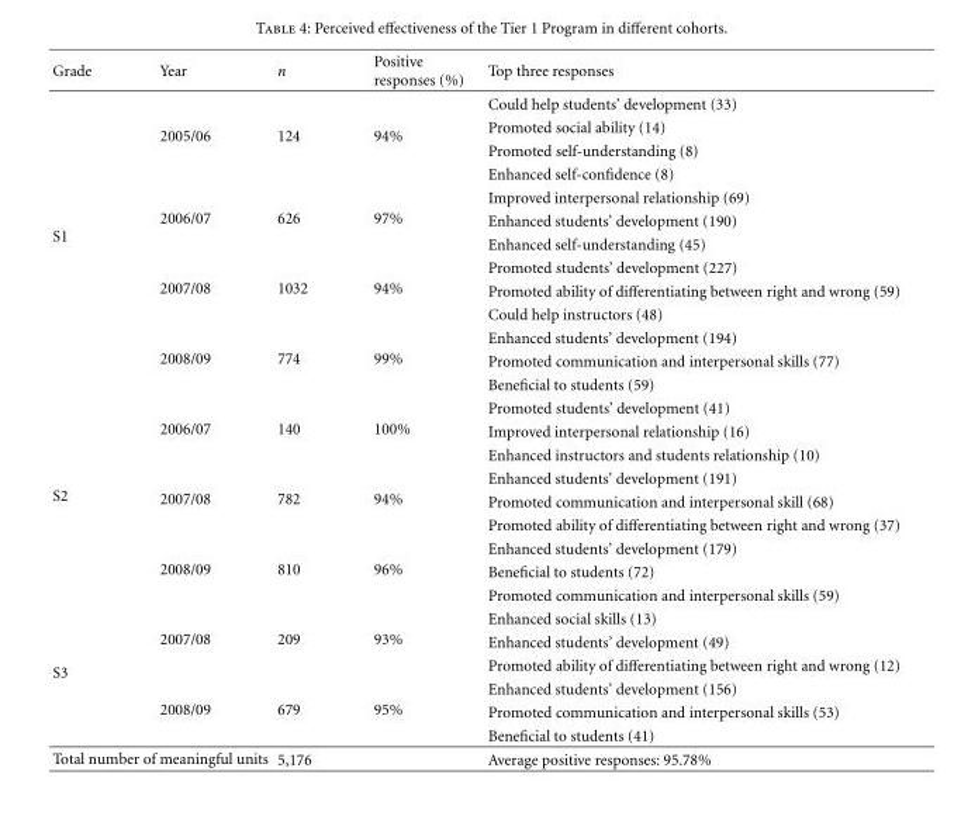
<table><thead><tr><td>Grade</td><td>Year</td><td>n</td><td>Positive responses (%)</td><td>Top three responses</td></tr></thead><tbody><tr><td rowspan="13">S1</td><td rowspan="4">2005/06</td><td rowspan="4">124</td><td rowspan="4">94%</td><td>Could help students’ development (33)</td></tr><tr><td>Promoted social ability (14)</td></tr><tr><td>Promoted self-understanding (8)</td></tr><tr><td>Enhanced self-confidence (8)</td></tr><tr><td rowspan="3">2006/07</td><td rowspan="3">626</td><td rowspan="3">97%</td><td>Improved interpersonal relationship (69)</td></tr><tr><td>Enhanced students’ development (190)</td></tr><tr><td>Enhanced self-understanding (45)</td></tr><tr><td rowspan="3">2007/08</td><td rowspan="3">1032</td><td rowspan="3">94%</td><td>Promoted students’ development (227)</td></tr><tr><td>Promoted ability of differentiating between right and wrong (59)</td></tr><tr><td>Could help instructors (48)</td></tr><tr><td rowspan="3">2008/09</td><td rowspan="3">774</td><td rowspan="3">99%</td><td>Enhanced students’ development (194)</td></tr><tr><td>Promoted communication and interpersonal skills (77)</td></tr><tr><td>Beneficial to students (59)</td></tr><tr><td rowspan="9">S2</td><td rowspan="3">2006/07</td><td rowspan="3">140</td><td rowspan="3">100%</td><td>Promoted students’ development (41)</td></tr><tr><td>Improved interpersonal relationship (16)</td></tr><tr><td>Enhanced instructors and students relationship (10)</td></tr><tr><td rowspan="3">2007/08</td><td rowspan="3">782</td><td rowspan="3">94%</td><td>Enhanced students’ development (191)</td></tr><tr><td>Promoted communication and interpersonal skill (68)</td></tr><tr><td>Promoted ability of differentiating between right and wrong (37)</td></tr><tr><td rowspan="3">2008/09</td><td rowspan="3">810</td><td rowspan="3">96%</td><td>Enhanced students’ development (179)</td></tr><tr><td>Beneficial to students (72)</td></tr><tr><td>Promoted communication and interpersonal skills (59)</td></tr><tr><td rowspan="6">S3</td><td rowspan="3">2007/08</td><td rowspan="3">209</td><td rowspan="3">93%</td><td>Enhanced social skills (13)</td></tr><tr><td>Enhanced students’ development (49)</td></tr><tr><td>Promoted ability of differentiating between right and wrong (12)</td></tr><tr><td rowspan="3">2008/09</td><td rowspan="3">679</td><td rowspan="3">95%</td><td>Enhanced students’ development (156)</td></tr><tr><td>Promoted communication and interpersonal skills (53)</td></tr><tr><td>Beneficial to students (41)</td></tr><tr><td colspan="2">Total number of meaningful units</td><td>5,176</td><td></td><td>Average positive responses: 95.78%</td></tr></tbody></table>